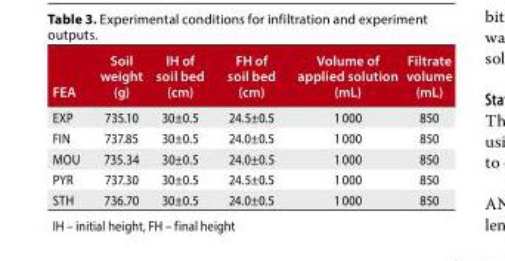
<table><thead><tr><td>FEA</td><td>Soil weight (g)</td><td>IH of soil bed (cm)</td><td>FH of soil bed (cm)</td><td>Volume of applied solution (mL)</td><td>Filtrate volume (mL)</td></tr></thead><tbody><tr><td>EXP</td><td>735.10</td><td>30±0.5</td><td>24.5±0.5</td><td>1 000</td><td>850</td></tr><tr><td>FIN</td><td>737.85</td><td>30±0.5</td><td>24.0±0.5</td><td>1 000</td><td>850</td></tr><tr><td>MOU</td><td>735.34</td><td>30±0.5</td><td>24.0±0.5</td><td>1 000</td><td>850</td></tr><tr><td>PYR</td><td>737.30</td><td>30±0.5</td><td>24.5±0.5</td><td>1 000</td><td>850</td></tr><tr><td>STH</td><td>736.70</td><td>30±0.5</td><td>24.0±0.5</td><td>1 000</td><td>850</td></tr></tbody></table>